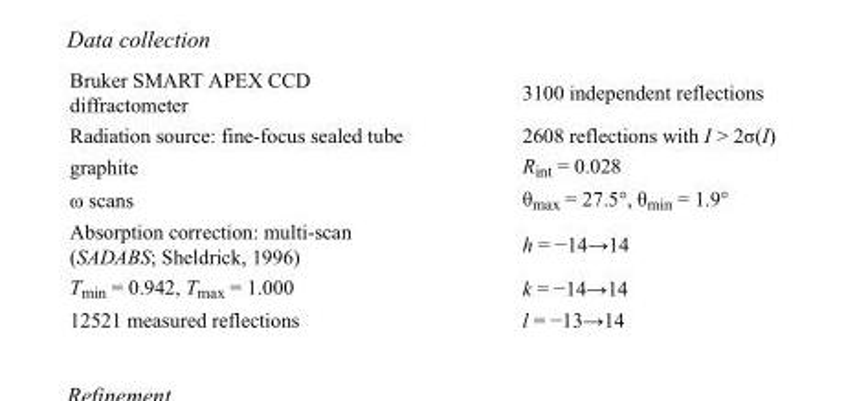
<table><tbody><tr><td>Bruker SMART APEX CCD diffractometer</td><td>3100 independent reflections</td></tr><tr><td>Radiation source: fine-focus sealed tube</td><td>2608 reflections with I &gt; 2σ(I)</td></tr><tr><td>graphite</td><td>R<sub>int</sub> = 0.028</td></tr><tr><td>ω scans</td><td>θ<sub>max</sub> = 27.5°, θ<sub>min</sub> = 1.9°</td></tr><tr><td>Absorption correction: multi-scan (SADABS; Sheldrick, 1996)</td><td>h = −14→14</td></tr><tr><td>T<sub>min</sub> = 0.942, T<sub>max</sub> = 1.000</td><td>k = −14→14</td></tr><tr><td>12521 measured reflections</td><td>l = −13→14</td></tr></tbody></table>